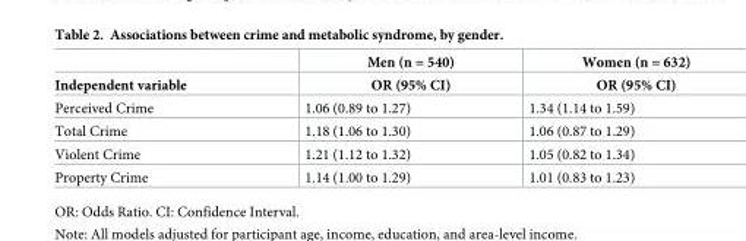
<table><thead><tr><td rowspan="2">Independent variable</td><td rowspan="2">Men (n = 540) OR (95% CI)</td><td rowspan="2">Women (n = 632) OR (95% CI)</td></tr><tr></tr></thead><tbody><tr><td>Perceived Crime</td><td>1.06 (0.89 to 1.27)</td><td>1.34 (1.14 to 1.59)</td></tr><tr><td>Total Crime</td><td>1.18 (1.06 to 1.30)</td><td>1.06 (0.87 to 1.29)</td></tr><tr><td>Violent Crime</td><td>1.21 (1.12 to 1.32)</td><td>1.05 (0.82 to 1.34)</td></tr><tr><td>Property Crime</td><td>1.14 (1.00 to 1.29)</td><td>1.01 (0.83 to 1.23)</td></tr></tbody></table>